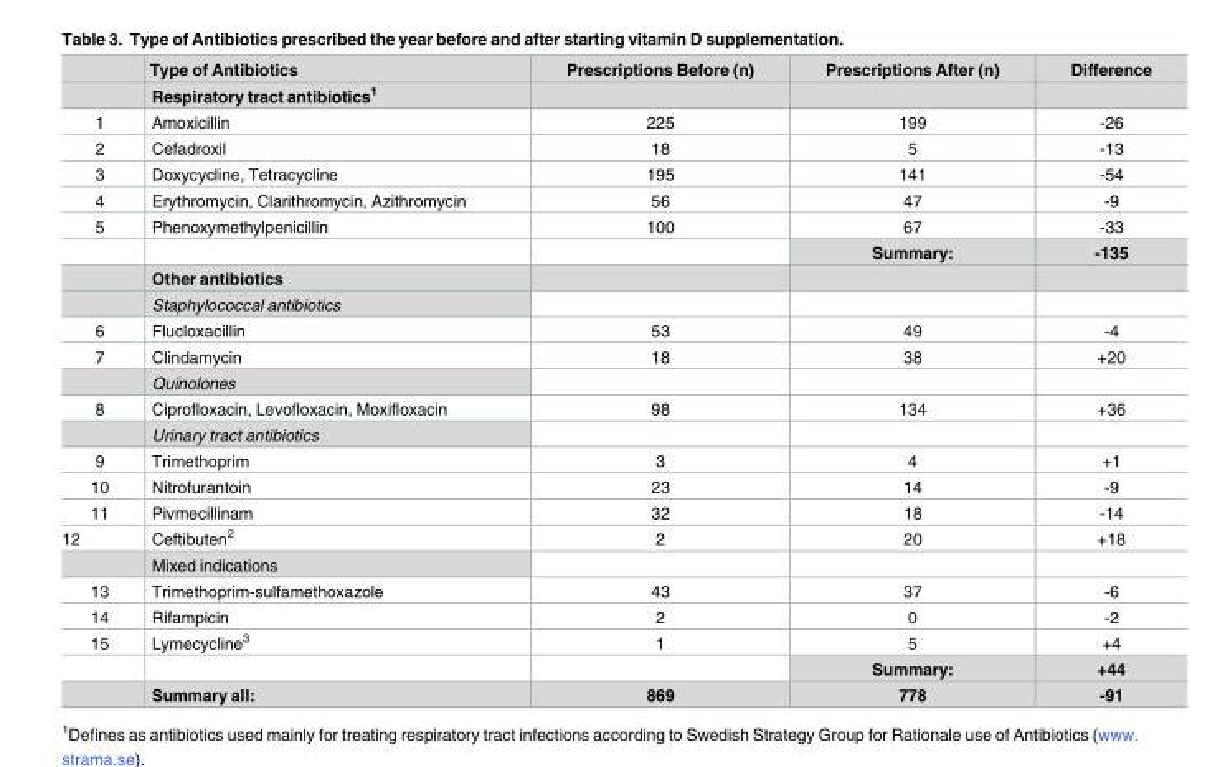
<table><thead><tr><td></td><td>Type of Antibiotics</td><td>Prescriptions Before (n)</td><td>Prescriptions After (n)</td><td>Difference</td></tr></thead><tbody><tr><td></td><td>Respiratory tract antibiotics<sup>1</sup></td><td></td><td></td><td></td></tr><tr><td>1</td><td>Amoxicillin</td><td>225</td><td>199</td><td>-26</td></tr><tr><td>2</td><td>Cefadroxil</td><td>18</td><td>5</td><td>-13</td></tr><tr><td>3</td><td>Doxycycline, Tetracycline</td><td>195</td><td>141</td><td>-54</td></tr><tr><td>4</td><td>Erythromycin, Clarithromycin, Azithromycin</td><td>56</td><td>47</td><td>-9</td></tr><tr><td rowspan="4">5</td><td>Phenoxymethylpenicillin</td><td>100</td><td>67</td><td>-33</td></tr><tr><td></td><td></td><td>Summary:</td><td>-135</td></tr><tr><td>Other antibiotics</td><td></td><td></td><td></td></tr><tr><td>Staphylococcal antibiotics</td><td></td><td></td><td></td></tr><tr><td>6</td><td>Flucloxacillin</td><td>53</td><td>49</td><td>-4</td></tr><tr><td rowspan="2">7</td><td>Clindamycin</td><td>18</td><td>38</td><td>+20</td></tr><tr><td>Quinolones</td><td></td><td></td><td></td></tr><tr><td rowspan="2">8</td><td>Ciprofloxacin, Levofloxacin, Moxifloxacin</td><td>98</td><td>134</td><td>+36</td></tr><tr><td>Urinary tract antibiotics</td><td></td><td></td><td></td></tr><tr><td>9</td><td>Trimethoprim</td><td>3</td><td>4</td><td>+1</td></tr><tr><td>10</td><td>Nitrofurantoin</td><td>23</td><td>14</td><td>-9</td></tr><tr><td>11</td><td>Pivmecillinam</td><td>32</td><td>18</td><td>-14</td></tr><tr><td rowspan="2">12</td><td>Ceftibuten<sup>2</sup></td><td>2</td><td>20</td><td>+18</td></tr><tr><td>Mixed indications</td><td></td><td></td><td></td></tr><tr><td>13</td><td>Trimethoprim-sulfamethoxazole</td><td>43</td><td>37</td><td>-6</td></tr><tr><td>14</td><td>Rifampicin</td><td>2</td><td>0</td><td>-2</td></tr><tr><td rowspan="3">15</td><td>Lymecycline<sup>3</sup></td><td>1</td><td>5</td><td>+4</td></tr><tr><td></td><td></td><td>Summary:</td><td>+44</td></tr><tr><td>Summary all:</td><td>869</td><td>778</td><td>-91</td></tr></tbody></table>